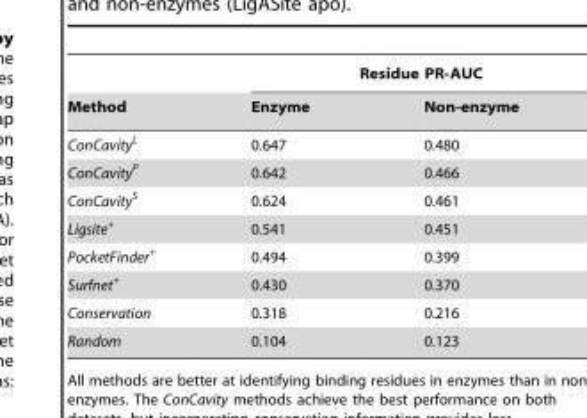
<table><thead><tr><td rowspan="2">Method</td><td colspan="2">Residue PR-AUC</td></tr><tr><td>Enzyme</td><td>Non-enzyme</td></tr></thead><tbody><tr><td>ConCavity<sup>L</sup></td><td>0.647</td><td>0.480</td></tr><tr><td>ConCavity<sup>P</sup></td><td>0.642</td><td>0.466</td></tr><tr><td>ConCavity<sup>S</sup></td><td>0.624</td><td>0.461</td></tr><tr><td>Ligsite<sup>+</sup></td><td>0.541</td><td>0.451</td></tr><tr><td>PocketFinder<sup>+</sup></td><td>0.494</td><td>0.399</td></tr><tr><td>Surfnet<sup>+</sup></td><td>0.430</td><td>0.370</td></tr><tr><td>Conservation</td><td>0.318</td><td>0.216</td></tr><tr><td>Random</td><td>0.104</td><td>0.123</td></tr></tbody></table>